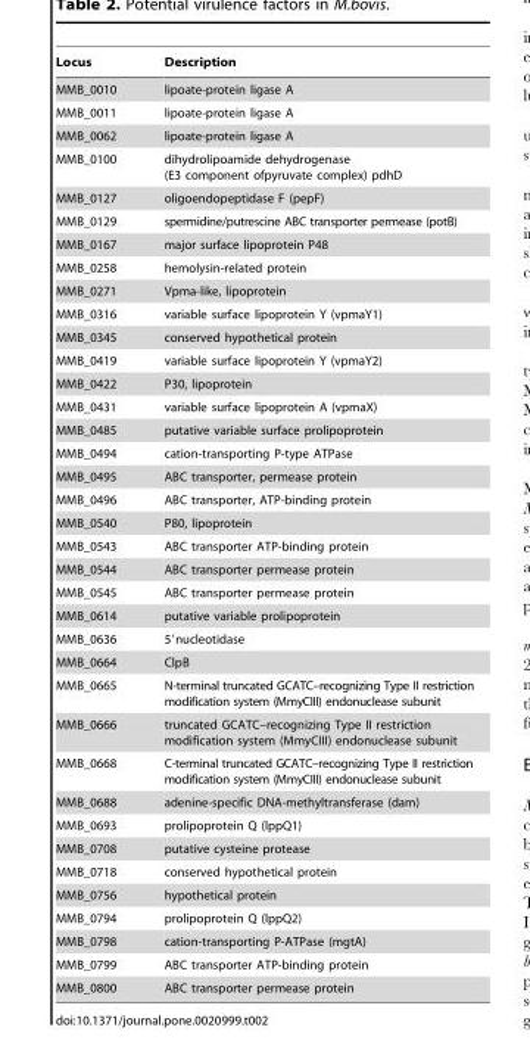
<table><thead><tr><td>Locus</td><td>Description</td></tr></thead><tbody><tr><td>MMB_0010</td><td>lipoate-protein ligase A</td></tr><tr><td>MMB_0011</td><td>lipoate-protein ligase A</td></tr><tr><td>MMB_0062</td><td>lipoate-protein ligase A</td></tr><tr><td>MMB_0100</td><td>dihydrolipoamide dehydrogenase (E3 component ofpyruvate complex) pdhD</td></tr><tr><td>MMB_0127</td><td>oligoendopeptidase F (pepF)</td></tr><tr><td>MMB_0129</td><td>spermidine/putrescine ABC transporter permease (potB)</td></tr><tr><td>MMB_0167</td><td>major surface lipoprotein P48</td></tr><tr><td>MMB_0258</td><td>hemolysin-related protein</td></tr><tr><td>MMB_0271</td><td>Vpma-like, lipoprotein</td></tr><tr><td>MMB_0316</td><td>variable surface lipoprotein Y (vpmaY1)</td></tr><tr><td>MMB_0345</td><td>conserved hypothetical protein</td></tr><tr><td>MMB_0419</td><td>variable surface lipoprotein Y (vpmaY2)</td></tr><tr><td>MMB_0422</td><td>P30, lipoprotein</td></tr><tr><td>MMB_0431</td><td>variable surface lipoprotein A (vpmaX)</td></tr><tr><td>MMB_0485</td><td>putative variable surface prolipoprotein</td></tr><tr><td>MMB_0494</td><td>cation-transporting P-type ATPase</td></tr><tr><td>MMB_0495</td><td>ABC transporter, permease protein</td></tr><tr><td>MMB_0496</td><td>ABC transporter, ATP-binding protein</td></tr><tr><td>MMB_0540</td><td>P80, lipoprotein</td></tr><tr><td>MMB_0543</td><td>ABC transporter ATP-binding protein</td></tr><tr><td>MMB_0544</td><td>ABC transporter permease protein</td></tr><tr><td>MMB_0545</td><td>ABC transporter permease protein</td></tr><tr><td>MMB_0614</td><td>putative variable prolipoprotein</td></tr><tr><td>MMB_0636</td><td>5′nucleotidase</td></tr><tr><td>MMB_0664</td><td>ClpB</td></tr><tr><td>MMB_0665</td><td>N-terminal truncated GCATC–recognizing Type II restriction modification system (MmyCIII) endonuclease subunit</td></tr><tr><td>MMB_0666</td><td>truncated GCATC–recognizing Type II restriction modification system (MmyCIII) endonuclease subunit</td></tr><tr><td>MMB_0668</td><td>C-terminal truncated GCATC–recognizing Type II restriction modification system (MmyCIII) endonuclease subunit</td></tr><tr><td>MMB_0688</td><td>adenine-specific DNA-methyltransferase (dam)</td></tr><tr><td>MMB_0693</td><td>prolipoprotein Q (lppQ1)</td></tr><tr><td>MMB_0708</td><td>putative cysteine protease</td></tr><tr><td>MMB_0718</td><td>conserved hypothetical protein</td></tr><tr><td>MMB_0756</td><td>hypothetical protein</td></tr><tr><td>MMB_0794</td><td>prolipoprotein Q (lppQ2)</td></tr><tr><td>MMB_0798</td><td>cation-transporting P-ATPase (mgtA)</td></tr><tr><td>MMB_0799</td><td>ABC transporter ATP-binding protein</td></tr><tr><td>MMB_0800</td><td>ABC transporter permease protein</td></tr></tbody></table>